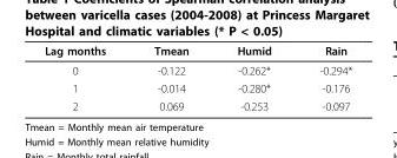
<table><thead><tr><td>Lag months</td><td>Tmean</td><td>Humid</td><td>Rain</td></tr></thead><tbody><tr><td>0</td><td>-0.122</td><td>-0.262*</td><td>-0.294*</td></tr><tr><td>1</td><td>-0.014</td><td>-0.280*</td><td>-0.176</td></tr><tr><td>2</td><td>0.069</td><td>-0.253</td><td>-0.097</td></tr></tbody></table>